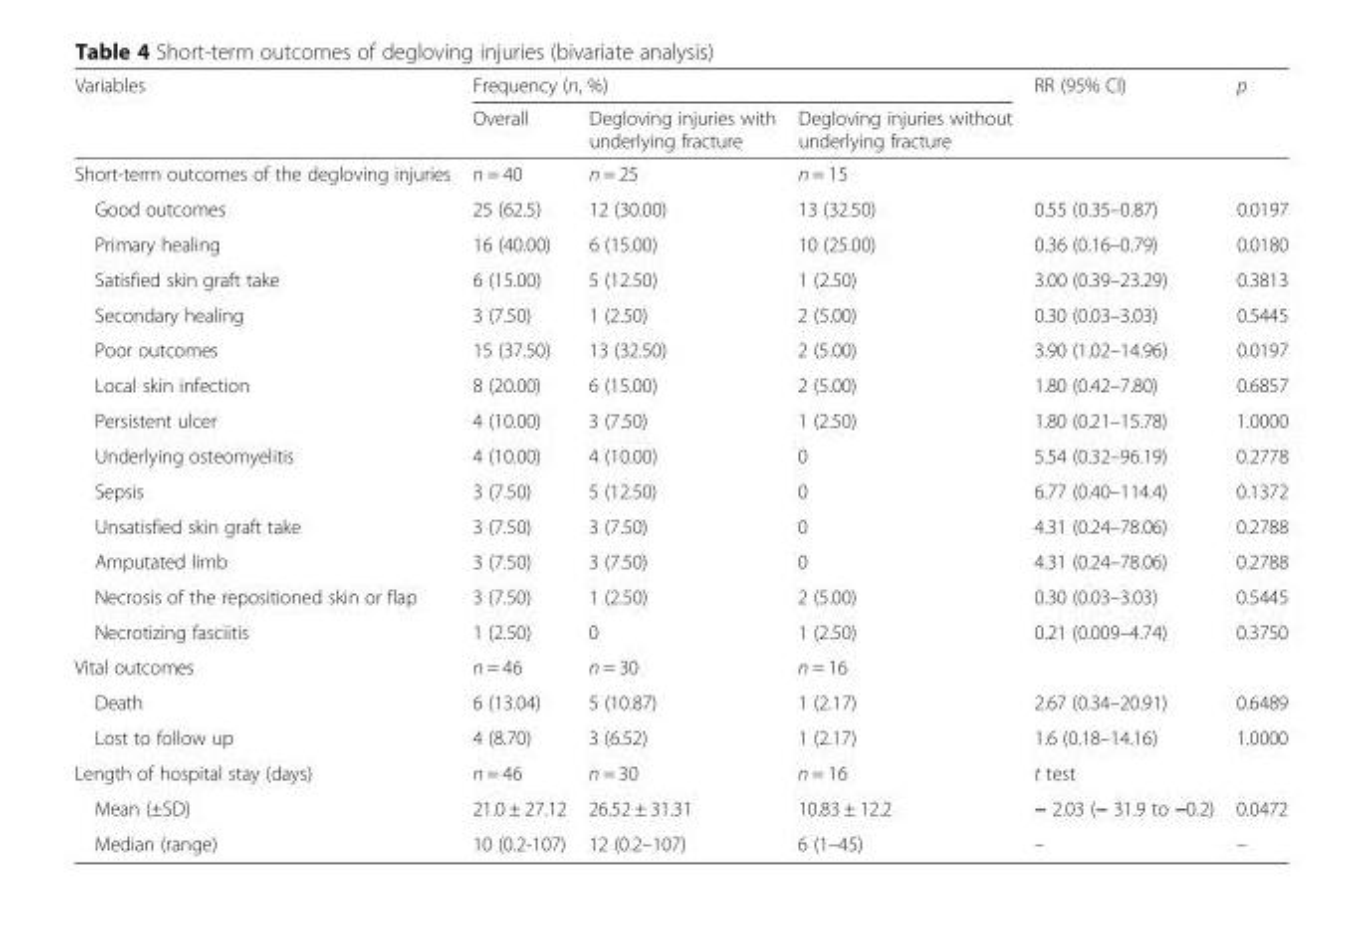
<table><thead><tr><td rowspan="2">Variables</td><td colspan="3">Frequency (n, %)</td><td rowspan="2">RR (95% CI)</td><td rowspan="2">p</td></tr><tr><td>Overall</td><td>Degloving injuries with underlying fracture</td><td>Degloving injuries without underlying fracture</td></tr></thead><tbody><tr><td>Short-term outcomes of the degloving injuries</td><td>n = 40</td><td>n = 25</td><td>n = 15</td><td></td><td></td></tr><tr><td>Good outcomes</td><td>25 (62.5)</td><td>12 (30.00)</td><td>13 (32.50)</td><td>0.55 (0.35–0.87)</td><td>0.0197</td></tr><tr><td>Primary healing</td><td>16 (40.00)</td><td>6 (15.00)</td><td>10 (25.00)</td><td>0.36 (0.16–0.79)</td><td>0.0180</td></tr><tr><td>Satisfied skin graft take</td><td>6 (15.00)</td><td>5 (12.50)</td><td>1 (2.50)</td><td>3.00 (0.39–23.29)</td><td>0.3813</td></tr><tr><td>Secondary healing</td><td>3 (7.50)</td><td>1 (2.50)</td><td>2 (5.00)</td><td>0.30 (0.03–3.03)</td><td>0.5445</td></tr><tr><td>Poor outcomes</td><td>15 (37.50)</td><td>13 (32.50)</td><td>2 (5.00)</td><td>3.90 (1.02–14.96)</td><td>0.0197</td></tr><tr><td>Local skin infection</td><td>8 (20.00)</td><td>6 (15.00)</td><td>2 (5.00)</td><td>1.80 (0.42–7.80)</td><td>0.6857</td></tr><tr><td>Persistent ulcer</td><td>4 (10.00)</td><td>3 (7.50)</td><td>1 (2.50)</td><td>1.80 (0.21–15.78)</td><td>1.0000</td></tr><tr><td>Underlying osteomyelitis</td><td>4 (10.00)</td><td>4 (10.00)</td><td>0</td><td>5.54 (0.32–96.19)</td><td>0.2778</td></tr><tr><td>Sepsis</td><td>3 (7.50)</td><td>5 (12.50)</td><td>0</td><td>6.77 (0.40–114.4)</td><td>0.1372</td></tr><tr><td>Unsatisfied skin graft take</td><td>3 (7.50)</td><td>3 (7.50)</td><td>0</td><td>4.31 (0.24–78.06)</td><td>0.2788</td></tr><tr><td>Amputated limb</td><td>3 (7.50)</td><td>3 (7.50)</td><td>0</td><td>4.31 (0.24–78.06)</td><td>0.2788</td></tr><tr><td>Necrosis of the repositioned skin or flap</td><td>3 (7.50)</td><td>1 (2.50)</td><td>2 (5.00)</td><td>0.30 (0.03–3.03)</td><td>0.5445</td></tr><tr><td>Necrotizing fasciitis</td><td>1 (2.50)</td><td>0</td><td>1 (2.50)</td><td>0.21 (0.009–4.74)</td><td>0.3750</td></tr><tr><td>Vital outcomes</td><td>n = 46</td><td>n = 30</td><td>n = 16</td><td></td><td></td></tr><tr><td>Death</td><td>6 (13.04)</td><td>5 (10.87)</td><td>1 (2.17)</td><td>2.67 (0.34–20.91)</td><td>0.6489</td></tr><tr><td>Lost to follow up</td><td>4 (8.70)</td><td>3 (6.52)</td><td>1 (2.17)</td><td>1.6 (0.18–14.16)</td><td>1.0000</td></tr><tr><td>Length of hospital stay (days)</td><td>n = 46</td><td>n = 30</td><td>n = 16</td><td>t test</td><td></td></tr><tr><td>Mean (±SD)</td><td>21.0 ± 27.12</td><td>26.52 ± 31.31</td><td>10.83 ± 12.2</td><td>− 2.03 (− 31.9 to −0.2)</td><td>0.0472</td></tr><tr><td>Median (range)</td><td>10 (0.2-107)</td><td>12 (0.2–107)</td><td>6 (1–45)</td><td>–</td><td>–</td></tr></tbody></table>